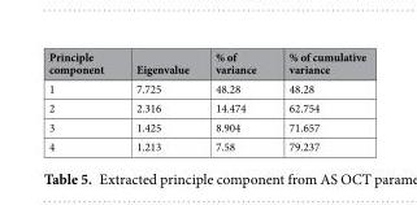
<table><thead><tr><td>Principle component</td><td>Eigenvalue</td><td>% of variance</td><td>% of cumulative variance</td></tr></thead><tbody><tr><td>1</td><td>7.725</td><td>48.28</td><td>48.28</td></tr><tr><td>2</td><td>2.316</td><td>14.474</td><td>62.754</td></tr><tr><td>3</td><td>1.425</td><td>8.904</td><td>71.657</td></tr><tr><td>4</td><td>1.213</td><td>7.58</td><td>79.237</td></tr></tbody></table>